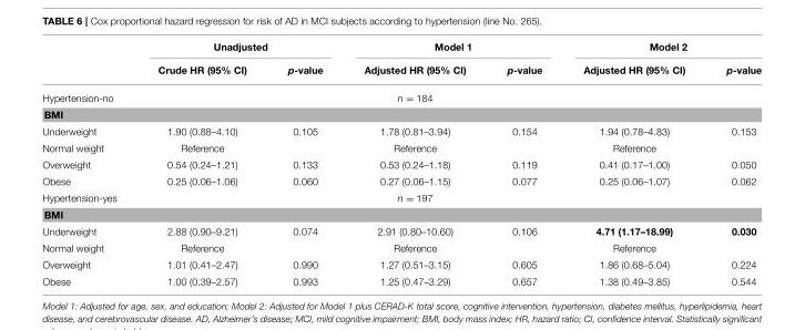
<table><thead><tr><td rowspan="2"></td><td colspan="2">Unadjusted</td><td colspan="2">Model 1</td><td colspan="2">Model 2</td></tr><tr><td>Crude HR (95% CI)</td><td>p-value</td><td>Adjusted HR (95% CI)</td><td>p-value</td><td>Adjusted HR (95% CI)</td><td>p-value</td></tr></thead><tbody><tr><td>Hypertension-no</td><td></td><td></td><td>n = 184</td><td></td><td></td><td></td></tr><tr><td colspan="7">BMI</td></tr><tr><td>Underweight</td><td>1.90 (0.88–4.10)</td><td>0.105</td><td>1.78 (0.81–3.94)</td><td>0.154</td><td>1.94 (0.78–4.83)</td><td>0.153</td></tr><tr><td>Normal weight</td><td>Reference</td><td></td><td>Reference</td><td></td><td>Reference</td><td></td></tr><tr><td>Overweight</td><td>0.54 (0.24–1.21)</td><td>0.133</td><td>0.53 (0.24–1.18)</td><td>0.119</td><td>0.41 (0.17–1.00)</td><td>0.050</td></tr><tr><td>Obese</td><td>0.25 (0.06–1.06)</td><td>0.060</td><td>0.27 (0.06–1.15)</td><td>0.077</td><td>0.25 (0.06–1.07)</td><td>0.062</td></tr><tr><td>Hypertension-yes</td><td></td><td></td><td>n = 197</td><td></td><td></td><td></td></tr><tr><td colspan="7">BMI</td></tr><tr><td>Underweight</td><td>2.88 (0.90–9.21)</td><td>0.074</td><td>2.91 (0.80–10.60)</td><td>0.106</td><td>4.71 (1.17–18.99)</td><td>0.030</td></tr><tr><td>Normal weight</td><td>Reference</td><td></td><td>Reference</td><td></td><td>Reference</td><td></td></tr><tr><td>Overweight</td><td>1.01 (0.41–2.47)</td><td>0.990</td><td>1.27 (0.51–3.15)</td><td>0.605</td><td>1.86 (0.68–5.04)</td><td>0.224</td></tr><tr><td>Obese</td><td>1.00 (0.39–2.57)</td><td>0.993</td><td>1.25 (0.47–3.29)</td><td>0.657</td><td>1.38 (0.49–3.85)</td><td>0.544</td></tr></tbody></table>